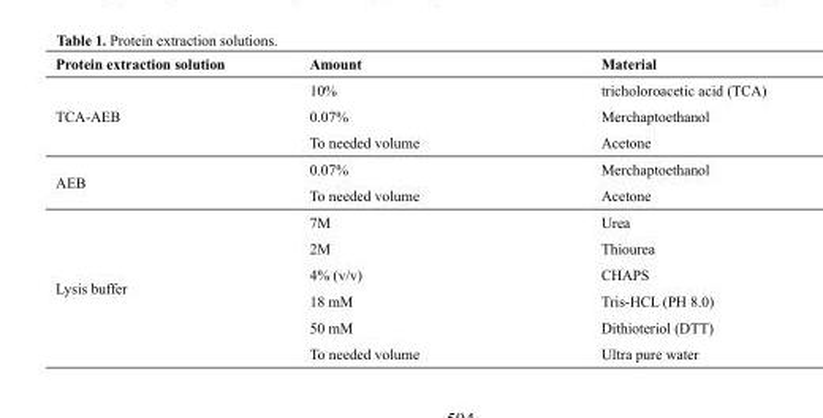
<table><thead><tr><td>Material</td><td>Amount</td><td>Protein extraction solution</td></tr></thead><tbody><tr><td>tricholoroacetic acid (TCA)</td><td>10%</td><td rowspan="3">TCA-AEB</td></tr><tr><td>Merchaptoethanol</td><td>0.07%</td></tr><tr><td>Acetone</td><td>To needed volume</td></tr><tr><td>Merchaptoethanol</td><td>0.07%</td><td rowspan="2">AEB</td></tr><tr><td>Acetone</td><td>To needed volume</td></tr><tr><td>Urea</td><td>7M</td><td rowspan="6">Lysis buffer</td></tr><tr><td>Thiourea</td><td>2M</td></tr><tr><td>CHAPS</td><td>4% (v/v)</td></tr><tr><td>Tris-HCL (PH 8.0)</td><td>18 mM</td></tr><tr><td>Dithioteriol (DTT)</td><td>50 mM</td></tr><tr><td>Ultra pure water</td><td>To needed volume</td></tr></tbody></table>